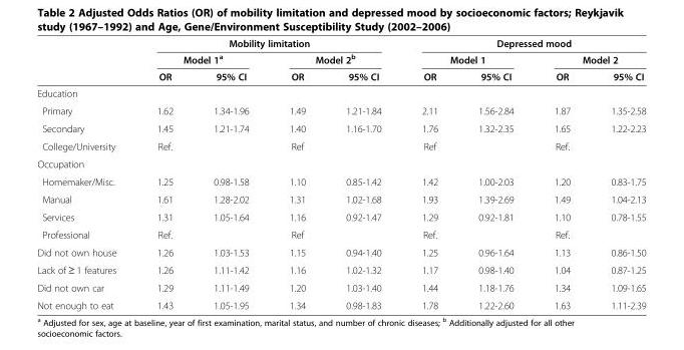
<table><thead><tr><td rowspan="3"></td><td colspan="4">Mobility limitation</td><td colspan="4">Depressed mood</td></tr><tr><td colspan="2">Model 1<sup>a</sup></td><td colspan="2">Model 2<sup>b</sup></td><td colspan="2">Model 1</td><td colspan="2">Model 2</td></tr><tr><td>OR</td><td>95% CI</td><td>OR</td><td>95% CI</td><td>OR</td><td>95% CI</td><td>OR</td><td>95% CI</td></tr></thead><tbody><tr><td colspan="9">Education</td></tr><tr><td>Primary</td><td>1.62</td><td>1.34-1.96</td><td>1.49</td><td>1.21-1.84</td><td>2.11</td><td>1.56-2.84</td><td>1.87</td><td>1.35-2.58</td></tr><tr><td>Secondary</td><td>1.45</td><td>1.21-1.74</td><td>1.40</td><td>1.16-1.70</td><td>1.76</td><td>1.32-2.35</td><td>1.65</td><td>1.22-2.23</td></tr><tr><td>College/University</td><td>Ref.</td><td></td><td>Ref</td><td></td><td>Ref</td><td></td><td>Ref.</td><td></td></tr><tr><td colspan="9">Occupation</td></tr><tr><td>Homemaker/Misc.</td><td>1.25</td><td>0.98-1.58</td><td>1.10</td><td>0.85-1.42</td><td>1.42</td><td>1.00-2.03</td><td>1.20</td><td>0.83-1.75</td></tr><tr><td>Manual</td><td>1.61</td><td>1.28-2.02</td><td>1.31</td><td>1.02-1.68</td><td>1.93</td><td>1.39-2.69</td><td>1.49</td><td>1.04-2.13</td></tr><tr><td>Services</td><td>1.31</td><td>1.05-1.64</td><td>1.16</td><td>0.92-1.47</td><td>1.29</td><td>0.92-1.81</td><td>1.10</td><td>0.78-1.55</td></tr><tr><td>Professional</td><td>Ref.</td><td></td><td>Ref</td><td></td><td>Ref.</td><td></td><td>Ref.</td><td></td></tr><tr><td>Did not own house</td><td>1.26</td><td>1.03-1.53</td><td>1.15</td><td>0.94-1.40</td><td>1.25</td><td>0.96-1.64</td><td>1.13</td><td>0.86-1.50</td></tr><tr><td>Lack of ≥ 1 features</td><td>1.26</td><td>1.11-1.42</td><td>1.16</td><td>1.02-1.32</td><td>1.17</td><td>0.98-1.40</td><td>1.04</td><td>0.87-1.25</td></tr><tr><td>Did not own car</td><td>1.29</td><td>1.11-1.49</td><td>1.20</td><td>1.03-1.40</td><td>1.44</td><td>1.18-1.76</td><td>1.34</td><td>1.09-1.65</td></tr><tr><td>Not enough to eat</td><td>1.43</td><td>1.05-1.95</td><td>1.34</td><td>0.98-1.83</td><td>1.78</td><td>1.22-2.60</td><td>1.63</td><td>1.11-2.39</td></tr></tbody></table>